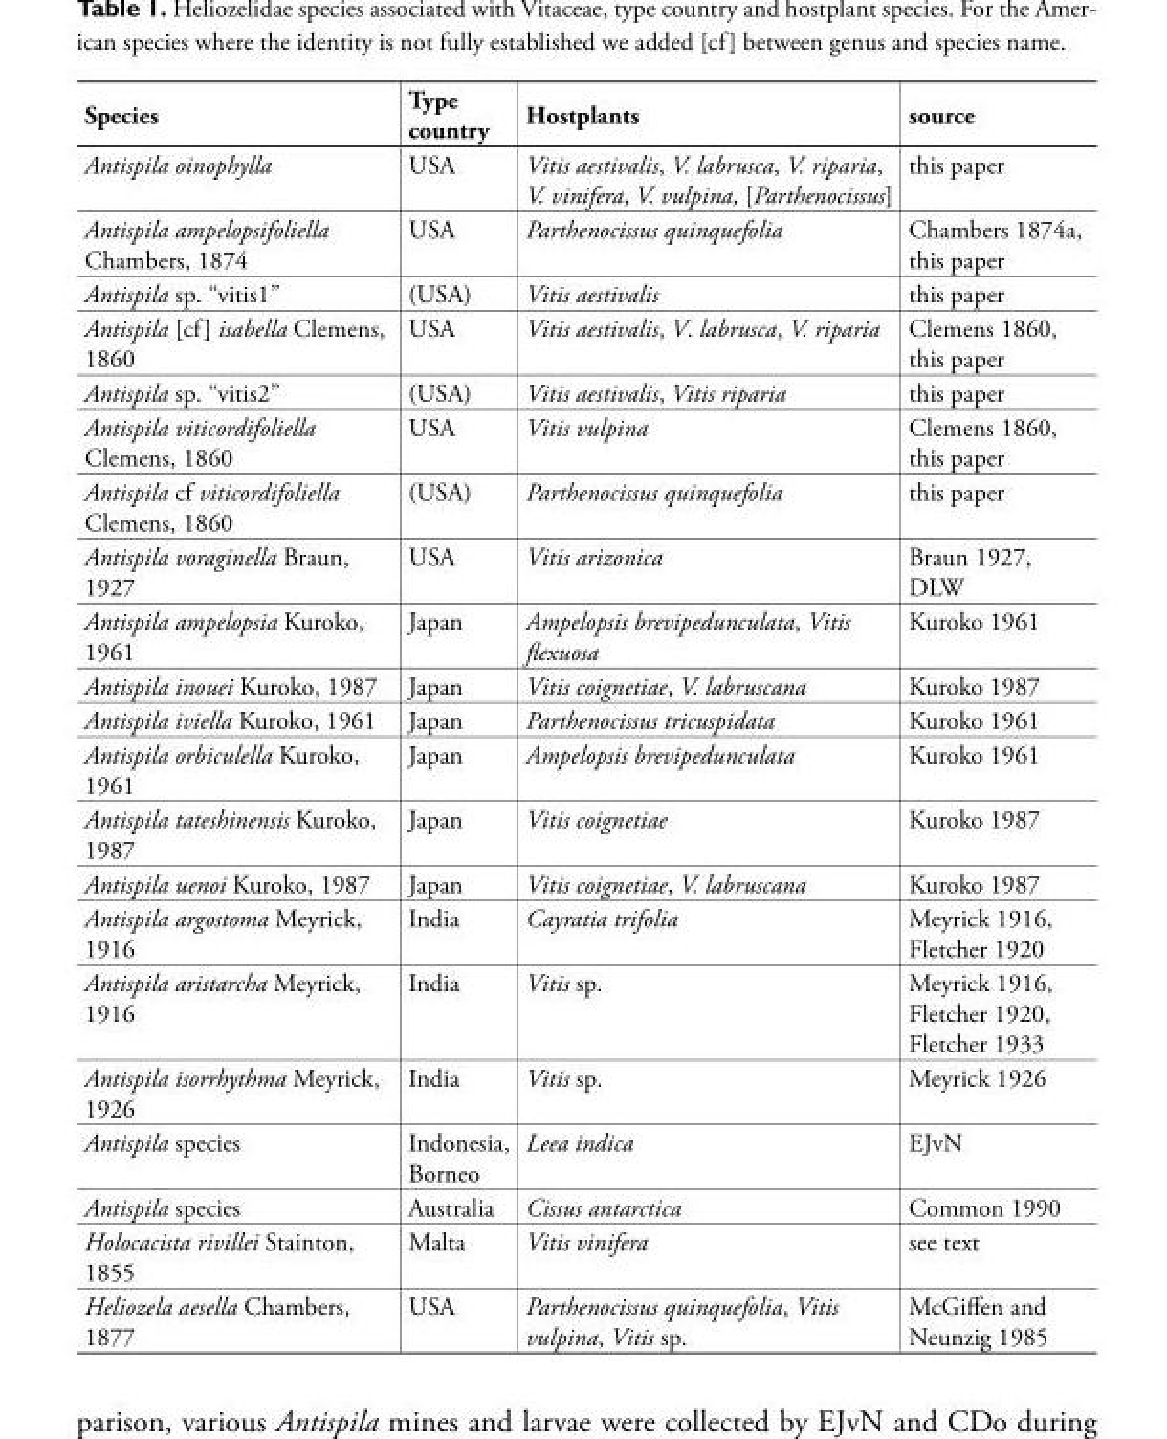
<table><thead><tr><td>Species</td><td>Type country</td><td>Hostplants</td><td>source</td></tr></thead><tbody><tr><td>Antispila oinophylla</td><td>USA</td><td>Vitis aestivalis, V. labrusca, V. riparia, V. vinifera, V. vulpina, [Parthenocissus]</td><td>this paper</td></tr><tr><td>Antispila ampelopsifoliella Chambers, 1874</td><td>USA</td><td>Parthenocissus quinquefolia</td><td>Chambers 1874a, this paper</td></tr><tr><td>Antispila sp. “vitis1”</td><td>(USA)</td><td>Vitis aestivalis</td><td>this paper</td></tr><tr><td>Antispila [cf] isabella Clemens, 1860</td><td>USA</td><td>Vitis aestivalis, V. labrusca, V. riparia</td><td>Clemens 1860, this paper</td></tr><tr><td>Antispila sp. “vitis2”</td><td>(USA)</td><td>Vitis aestivalis, Vitis riparia</td><td>this paper</td></tr><tr><td>Antispila viticordifoliella Clemens, 1860</td><td>USA</td><td>Vitis vulpina</td><td>Clemens 1860, this paper</td></tr><tr><td>Antispila cf viticordifoliella Clemens, 1860</td><td>(USA)</td><td>Parthenocissus quinquefolia</td><td>this paper</td></tr><tr><td>Antispila voraginella Braun, 1927</td><td>USA</td><td>Vitis arizonica</td><td>Braun 1927, DLW</td></tr><tr><td>Antispila ampelopsia Kuroko, 1961</td><td>Japan</td><td>Ampelopsis brevipedunculata, Vitis flexuosa</td><td>Kuroko 1961</td></tr><tr><td>Antispila inouei Kuroko, 1987</td><td>Japan</td><td>Vitis coignetiae, V. labruscana</td><td>Kuroko 1987</td></tr><tr><td>Antispila iviella Kuroko, 1961</td><td>Japan</td><td>Parthenocissus tricuspidata</td><td>Kuroko 1961</td></tr><tr><td>Antispila orbiculella Kuroko, 1961</td><td>Japan</td><td>Ampelopsis brevipedunculata</td><td>Kuroko 1961</td></tr><tr><td>Antispila tateshinensis Kuroko, 1987</td><td>Japan</td><td>Vitis coignetiae</td><td>Kuroko 1987</td></tr><tr><td>Antispila uenoi Kuroko, 1987</td><td>Japan</td><td>Vitis coignetiae, V. labruscana</td><td>Kuroko 1987</td></tr><tr><td>Antispila argostoma Meyrick, 1916</td><td>India</td><td>Cayratia trifolia</td><td>Meyrick 1916, Fletcher 1920</td></tr><tr><td>Antispila aristarcha Meyrick, 1916</td><td>India</td><td>Vitis sp.</td><td>Meyrick 1916, Fletcher 1920, Fletcher 1933</td></tr><tr><td>Antispila isorrhythma Meyrick, 1926</td><td>India</td><td>Vitis sp.</td><td>Meyrick 1926</td></tr><tr><td>Antispila species</td><td>Indonesia, Borneo</td><td>Leea indica</td><td>EJvN</td></tr><tr><td>Antispila species</td><td>Australia</td><td>Cissus antarctica</td><td>Common 1990</td></tr><tr><td>Holocacista rivillei Stainton, 1855</td><td>Malta</td><td>Vitis vinifera</td><td>see text</td></tr><tr><td>Heliozela aesella Chambers, 1877</td><td>USA</td><td>Parthenocissus quinquefolia, Vitis vulpina, Vitis sp.</td><td>McGiffen and Neunzig 1985</td></tr></tbody></table>